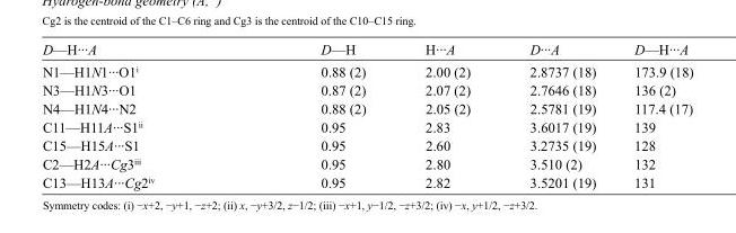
<table><tbody><tr><td>D—H···A</td><td>D—H</td><td>H···A</td><td>D···A</td><td>D—H···A</td></tr><tr><td>N1—H1N1···O1<sup>i</sup></td><td>0.88 (2)</td><td>2.00 (2)</td><td>2.8737 (18)</td><td>173.9 (18)</td></tr><tr><td>N3—H1N3···O1</td><td>0.87 (2)</td><td>2.07 (2)</td><td>2.7646 (18)</td><td>136 (2)</td></tr><tr><td>N4—H1N4···N2</td><td>0.88 (2)</td><td>2.05 (2)</td><td>2.5781 (19)</td><td>117.4 (17)</td></tr><tr><td>C11—H11A···S1<sup>ii</sup></td><td>0.95</td><td>2.83</td><td>3.6017 (19)</td><td>139</td></tr><tr><td>C15—H15A···S1</td><td>0.95</td><td>2.60</td><td>3.2735 (19)</td><td>128</td></tr><tr><td>C2—H2A···Cg3<sup>iii</sup></td><td>0.95</td><td>2.80</td><td>3.510 (2)</td><td>132</td></tr><tr><td>C13—H13A···Cg2<sup>iv</sup></td><td>0.95</td><td>2.82</td><td>3.5201 (19)</td><td>131</td></tr></tbody></table>